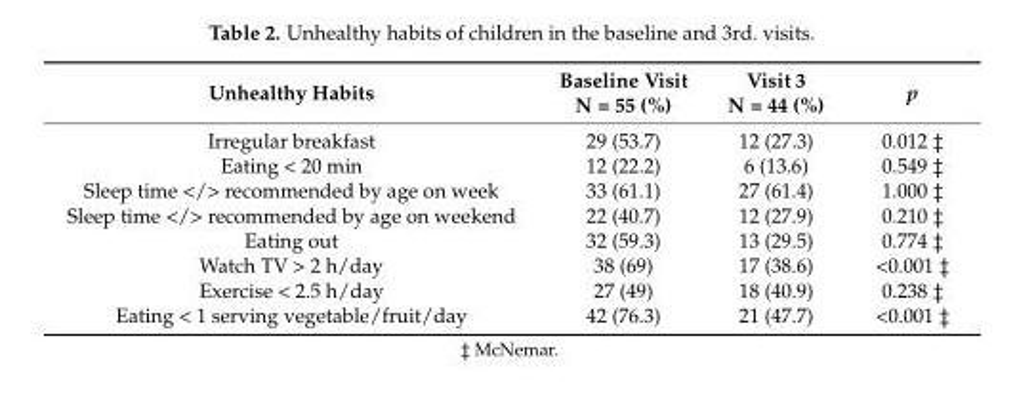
<table><thead><tr><td>Unhealthy Habits</td><td>Baseline Visit N = 55 (%)</td><td>Visit 3 N = 44 (%)</td><td>p</td></tr></thead><tbody><tr><td>Irregular breakfast</td><td>29 (53.7)</td><td>12 (27.3)</td><td>0.012 ‡</td></tr><tr><td>Eating &lt; 20 min</td><td>12 (22.2)</td><td>6 (13.6)</td><td>0.549 ‡</td></tr><tr><td>Sleep time &lt;/&gt; recommended by age on week</td><td>33 (61.1)</td><td>27 (61.4)</td><td>1.000 ‡</td></tr><tr><td>Sleep time &lt;/&gt; recommended by age on weekend</td><td>22 (40.7)</td><td>12 (27.9)</td><td>0.210 ‡</td></tr><tr><td>Eating out</td><td>32 (59.3)</td><td>13 (29.5)</td><td>0.774 ‡</td></tr><tr><td>Watch TV &gt; 2 h/day</td><td>38 (69)</td><td>17 (38.6)</td><td>&lt;0.001 ‡</td></tr><tr><td>Exercise &lt; 2.5 h/day</td><td>27 (49)</td><td>18 (40.9)</td><td>0.238 ‡</td></tr><tr><td>Eating &lt; 1 serving vegetable/fruit/day</td><td>42 (76.3)</td><td>21 (47.7)</td><td>&lt;0.001 ‡</td></tr></tbody></table>